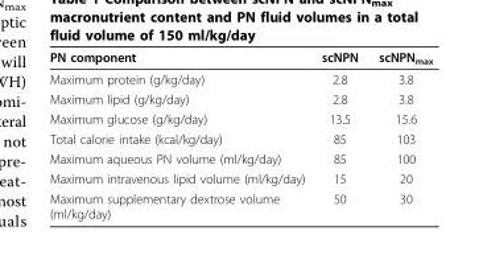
<table><thead><tr><td>PN component</td><td>scNPN</td><td>scNPN<sub>max</sub></td></tr></thead><tbody><tr><td>Maximum protein (g/kg/day)</td><td>2.8</td><td>3.8</td></tr><tr><td>Maximum lipid (g/kg/day)</td><td>2.8</td><td>3.8</td></tr><tr><td>Maximum glucose (g/kg/day)</td><td>13.5</td><td>15.6</td></tr><tr><td>Total calorie intake (kcal/kg/day)</td><td>85</td><td>103</td></tr><tr><td>Maximum aqueous PN volume (ml/kg/day)</td><td>85</td><td>100</td></tr><tr><td>Maximum intravenous lipid volume (ml/kg/day)</td><td>15</td><td>20</td></tr><tr><td>Maximum supplementary dextrose volume (ml/kg/day)</td><td>50</td><td>30</td></tr></tbody></table>